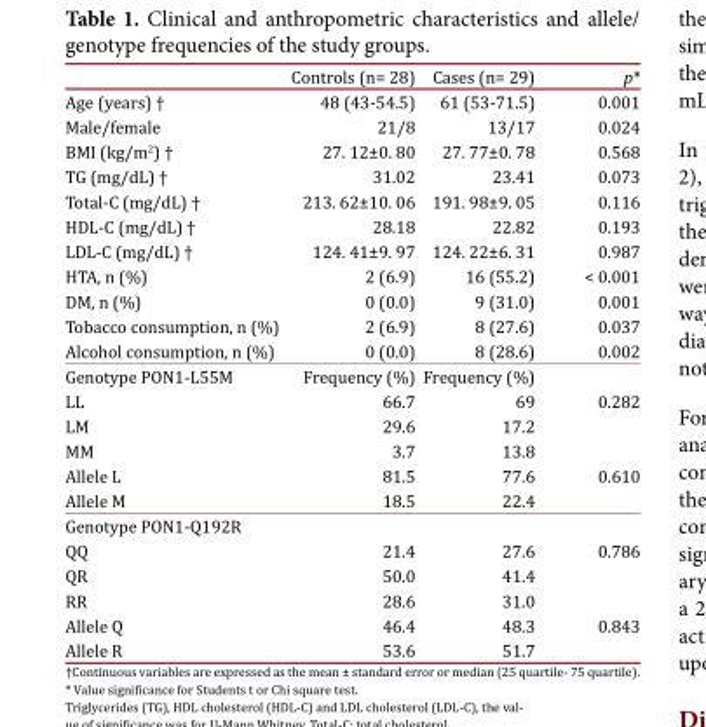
<table><thead><tr><td></td><td>Controls (n= 28)</td><td>Cases (n= 29)</td><td>p*</td></tr></thead><tbody><tr><td>Age (years) †</td><td>48 (43-54.5)</td><td>61 (53-71.5)</td><td>0.001</td></tr><tr><td>Male/female</td><td>21/8</td><td>13/17</td><td>0.024</td></tr><tr><td>BMI (kg/m<sup>2</sup>) †</td><td>27. 12±0. 80</td><td>27. 77±0. 78</td><td>0.568</td></tr><tr><td>TG (mg/dL) †</td><td>31.02</td><td>23.41</td><td>0.073</td></tr><tr><td>Total-C (mg/dL) †</td><td>213. 62±10. 06</td><td>191. 98±9. 05</td><td>0.116</td></tr><tr><td>HDL-C (mg/dL) †</td><td>28.18</td><td>22.82</td><td>0.193</td></tr><tr><td>LDL-C (mg/dL) †</td><td>124. 41±9. 97</td><td>124. 22±6. 31</td><td>0.987</td></tr><tr><td>HTA, n (%)</td><td>2 (6.9)</td><td>16 (55.2)</td><td>&lt; 0.001</td></tr><tr><td>DM, n (%)</td><td>0 (0.0)</td><td>9 (31.0)</td><td>0.001</td></tr><tr><td>Tobacco consumption, n (%)</td><td>2 (6.9)</td><td>8 (27.6)</td><td>0.037</td></tr><tr><td>Alcohol consumption, n (%)</td><td>0 (0.0)</td><td>8 (28.6)</td><td>0.002</td></tr><tr><td>Genotype PON1-L55M</td><td>Frequency (%)</td><td>Frequency (%)</td><td></td></tr><tr><td>LL</td><td>66.7</td><td>69</td><td>0.282</td></tr><tr><td>LM</td><td>29.6</td><td>17.2</td><td></td></tr><tr><td>MM</td><td>3.7</td><td>13.8</td><td></td></tr><tr><td>Allele L</td><td>81.5</td><td>77.6</td><td>0.610</td></tr><tr><td>Allele M</td><td>18.5</td><td>22.4</td><td></td></tr><tr><td colspan="4">Genotype PON1-Q192R</td></tr><tr><td>QQ</td><td>21.4</td><td>27.6</td><td>0.786</td></tr><tr><td>QR</td><td>50.0</td><td>41.4</td><td></td></tr><tr><td>RR</td><td>28.6</td><td>31.0</td><td></td></tr><tr><td>Allele Q</td><td>46.4</td><td>48.3</td><td>0.843</td></tr><tr><td>Allele R</td><td>53.6</td><td>51.7</td><td></td></tr></tbody></table>